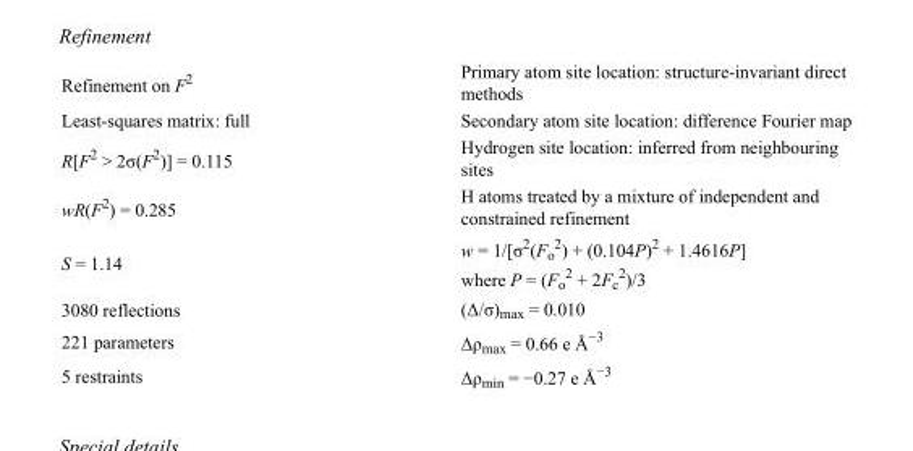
<table><tbody><tr><td>Refinement on F<sup>2</sup></td><td>Primary atom site location: structure-invariant direct methods</td></tr><tr><td>Least-squares matrix: full</td><td>Secondary atom site location: difference Fourier map</td></tr><tr><td>R[F<sup>2</sup> &gt; 2σ(F<sup>2</sup>)] = 0.115</td><td>Hydrogen site location: inferred from neighbouring sites</td></tr><tr><td>wR(F<sup>2</sup>) = 0.285</td><td>H atoms treated by a mixture of independent and constrained refinement</td></tr><tr><td>S = 1.14</td><td>w = 1/[σ<sup>2</sup>(F<sub>o</sub> <sup>2</sup>) + (0.104P)<sup>2</sup> + 1.4616P] where P = (F<sub>o</sub> <sup>2</sup> + 2F<sub>c</sub> <sup>2</sup>)/3</td></tr><tr><td>3080 reflections</td><td>(Δ/σ)<sub>max</sub> = 0.010</td></tr><tr><td>221 parameters</td><td>Δρ<sub>max</sub> = 0.66 e Å<sup>−3</sup></td></tr><tr><td>5 restraints</td><td>Δρ<sub>min</sub> = −0.27 e Å<sup>−3</sup></td></tr></tbody></table>